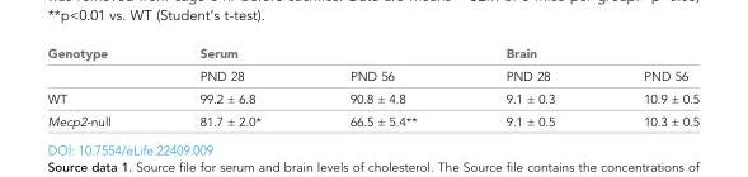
<table><thead><tr><td rowspan="2">Genotype</td><td colspan="2">Serum</td><td colspan="2">Brain</td></tr><tr><td>PND 28</td><td>PND 56</td><td>PND 28</td><td>PND 56</td></tr></thead><tbody><tr><td>WT</td><td>99.2 ± 6.8</td><td>90.8 ± 4.8</td><td>9.1 ± 0.3</td><td>10.9 ± 0.5</td></tr><tr><td>Mecp2-null</td><td>81.7 ± 2.0*</td><td>66.5 ± 5.4**</td><td>9.1 ± 0.5</td><td>10.3 ± 0.5</td></tr></tbody></table>